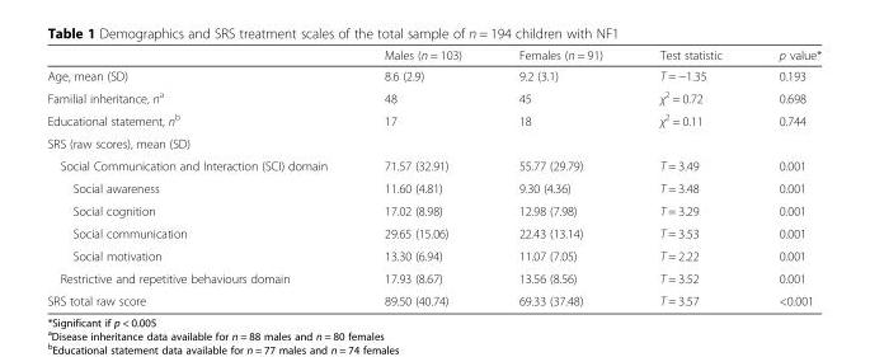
<table><thead><tr><td></td><td>Males (n = 103)</td><td>Females (n = 91)</td><td>Test statistic</td><td>p value*</td></tr></thead><tbody><tr><td>Age, mean (SD)</td><td>8.6 (2.9)</td><td>9.2 (3.1)</td><td>T = −1.35</td><td>0.193</td></tr><tr><td>Familial inheritance, n<sup>a</sup></td><td>48</td><td>45</td><td>χ<sup>2</sup> = 0.72</td><td>0.698</td></tr><tr><td>Educational statement, n<sup>b</sup></td><td>17</td><td>18</td><td>χ<sup>2</sup> = 0.11</td><td>0.744</td></tr><tr><td colspan="5">SRS (raw scores), mean (SD)</td></tr><tr><td>Social Communication and Interaction (SCI) domain</td><td>71.57 (32.91)</td><td>55.77 (29.79)</td><td>T = 3.49</td><td>0.001</td></tr><tr><td>Social awareness</td><td>11.60 (4.81)</td><td>9.30 (4.36)</td><td>T = 3.48</td><td>0.001</td></tr><tr><td>Social cognition</td><td>17.02 (8.98)</td><td>12.98 (7.98)</td><td>T = 3.29</td><td>0.001</td></tr><tr><td>Social communication</td><td>29.65 (15.06)</td><td>22.43 (13.14)</td><td>T = 3.53</td><td>0.001</td></tr><tr><td>Social motivation</td><td>13.30 (6.94)</td><td>11.07 (7.05)</td><td>T = 2.22</td><td>0.001</td></tr><tr><td>Restrictive and repetitive behaviours domain</td><td>17.93 (8.67)</td><td>13.56 (8.56)</td><td>T = 3.52</td><td>0.001</td></tr><tr><td>SRS total raw score</td><td>89.50 (40.74)</td><td>69.33 (37.48)</td><td>T = 3.57</td><td>&lt;0.001</td></tr></tbody></table>